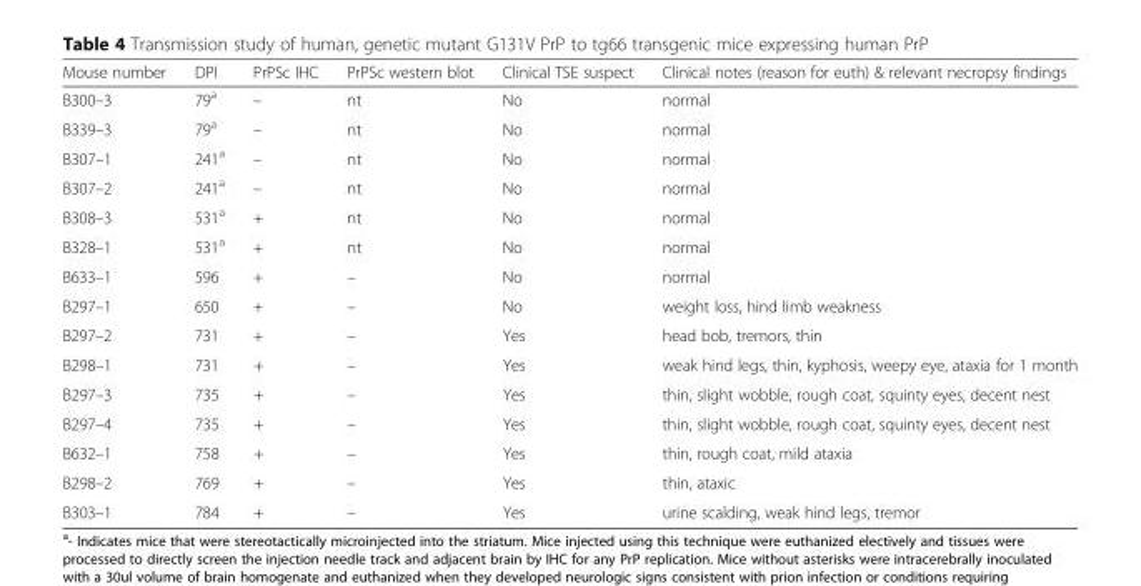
<table><thead><tr><td>Mouse number</td><td>DPI</td><td>PrPSc IHC</td><td>PrPSc western blot</td><td>Clinical TSE suspect</td><td>Clinical notes (reason for euth) &amp; relevant necropsy findings</td></tr></thead><tbody><tr><td>B300–3</td><td>79<sup>a</sup></td><td>–</td><td>nt</td><td>No</td><td>normal</td></tr><tr><td>B339–3</td><td>79<sup>a</sup></td><td>–</td><td>nt</td><td>No</td><td>normal</td></tr><tr><td>B307–1</td><td>241<sup>a</sup></td><td>–</td><td>nt</td><td>No</td><td>normal</td></tr><tr><td>B307–2</td><td>241<sup>a</sup></td><td>–</td><td>nt</td><td>No</td><td>normal</td></tr><tr><td>B308–3</td><td>531<sup>a</sup></td><td>+</td><td>nt</td><td>No</td><td>normal</td></tr><tr><td>B328–1</td><td>531<sup>a</sup></td><td>+</td><td>nt</td><td>No</td><td>normal</td></tr><tr><td>B633–1</td><td>596</td><td>+</td><td>–</td><td>No</td><td>normal</td></tr><tr><td>B297–1</td><td>650</td><td>+</td><td>–</td><td>No</td><td>weight loss, hind limb weakness</td></tr><tr><td>B297–2</td><td>731</td><td>+</td><td>–</td><td>Yes</td><td>head bob, tremors, thin</td></tr><tr><td>B298–1</td><td>731</td><td>+</td><td>–</td><td>Yes</td><td>weak hind legs, thin, kyphosis, weepy eye, ataxia for 1 month</td></tr><tr><td>B297–3</td><td>735</td><td>+</td><td>–</td><td>Yes</td><td>thin, slight wobble, rough coat, squinty eyes, decent nest</td></tr><tr><td>B297–4</td><td>735</td><td>+</td><td>–</td><td>Yes</td><td>thin, slight wobble, rough coat, squinty eyes, decent nest</td></tr><tr><td>B632–1</td><td>758</td><td>+</td><td>–</td><td>Yes</td><td>thin, rough coat, mild ataxia</td></tr><tr><td>B298–2</td><td>769</td><td>+</td><td>–</td><td>Yes</td><td>thin, ataxic</td></tr><tr><td>B303–1</td><td>784</td><td>+</td><td>–</td><td>Yes</td><td>urine scalding, weak hind legs, tremor</td></tr></tbody></table>